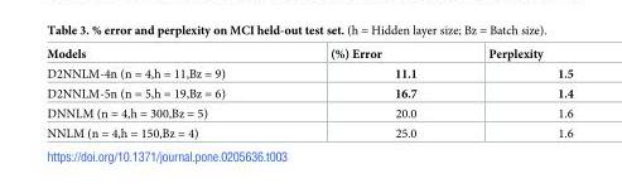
<table><thead><tr><td>Models</td><td>(%) Error</td><td>Perplexity</td></tr></thead><tbody><tr><td>D2NNLM-4n (n = 4,h = 11,Bz = 9)</td><td>11.1</td><td>1.5</td></tr><tr><td>D2NNLM-5n (n = 5,h = 19,Bz = 6)</td><td>16.7</td><td>1.4</td></tr><tr><td>DNNLM (n = 4,h = 300,Bz = 5)</td><td>20.0</td><td>1.6</td></tr><tr><td>NNLM (n = 4,h = 150,Bz = 4)</td><td>25.0</td><td>1.6</td></tr></tbody></table>